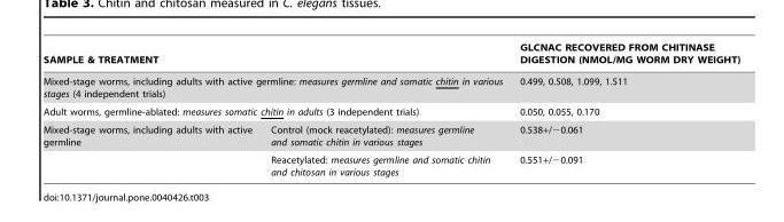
<table><thead><tr><td rowspan="3" colspan="2">SAMPLE &amp; TREATMENT Mixed-stage worms, including adults with active germline: measures germline and somatic chitin in various stages (4 independent trials) Adult worms, germline-ablated: measures somatic chitin in adults (3 independent trials)</td><td rowspan="4">GLCNAC RECOVERED FROM CHITINASE DIGESTION (NMOL/MG WORM DRY WEIGHT) 0.499, 0.508, 1.099, 1.511 0.050, 0.055, 0.170 0.538+/−0.061</td></tr><tr></tr><tr></tr><tr><td>Mixed-stage worms, including adults with active germline</td><td>Control (mock reacetylated): measures germline and somatic chitin in various stages</td></tr></thead><tbody><tr><td></td><td>Reacetylated: measures germline and somatic chitin and chitosan in various stages</td><td>0.551+/−0.091</td></tr></tbody></table>